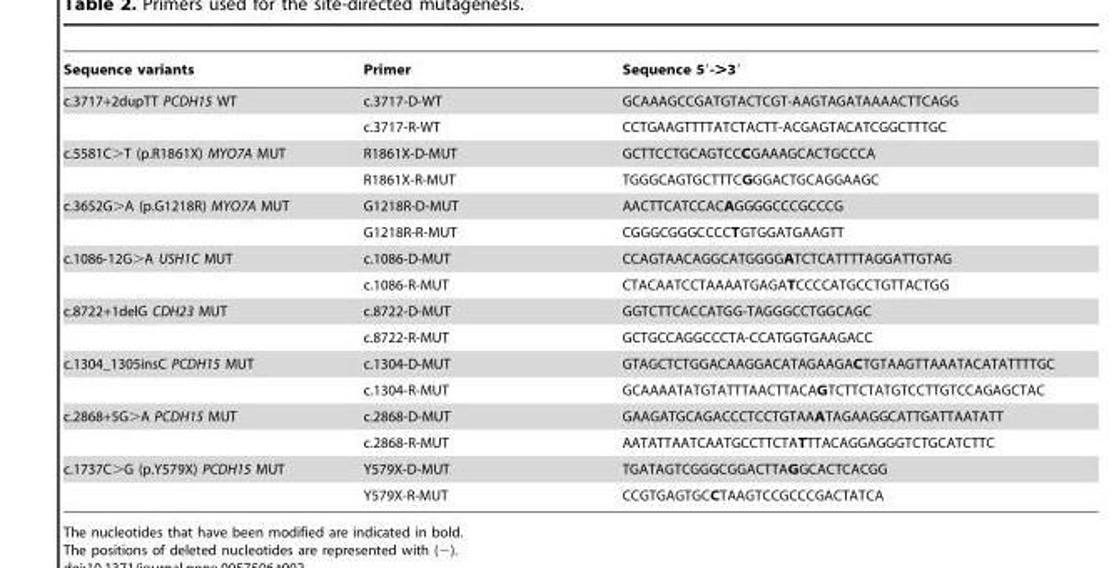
<table><thead><tr><td>Sequence variants</td><td>Primer</td><td>Sequence 5′-&gt;3′</td></tr></thead><tbody><tr><td rowspan="2">c.3717+2dupTT PCDH15 WT</td><td>c.3717-D-WT</td><td>GCAAAGCCGATGTACTCGT-AAGTAGATAAAACTTCAGG</td></tr><tr><td>c.3717-R-WT</td><td>CCTGAAGTTTTATCTACTT-ACGAGTACATCGGCTTTGC</td></tr><tr><td rowspan="2">c.5581C&gt;T (p.R1861X) MYO7A MUT</td><td>R1861X-D-MUT</td><td>GCTTCCTGCAGTCCCGAAAGCACTGCCCA</td></tr><tr><td>R1861X-R-MUT</td><td>TGGGCAGTGCTTTCGGGACTGCAGGAAGC</td></tr><tr><td rowspan="2">c.3652G&gt;A (p.G1218R) MYO7A MUT</td><td>G1218R-D-MUT</td><td>AACTTCATCCACAGGGGCCCGCCCG</td></tr><tr><td>G1218R-R-MUT</td><td>CGGGCGGGCCCCTGTGGATGAAGTT</td></tr><tr><td rowspan="2">c.1086-12G&gt;A USH1C MUT</td><td>c.1086-D-MUT</td><td>CCAGTAACAGGCATGGGGATCTCATTTTAGGATTGTAG</td></tr><tr><td>c.1086-R-MUT</td><td>CTACAATCCTAAAATGAGATCCCCATGCCTGTTACTGG</td></tr><tr><td rowspan="2">c.8722+1delG CDH23 MUT</td><td>c.8722-D-MUT</td><td>GGTCTTCACCATGG-TAGGGCCTGGCAGC</td></tr><tr><td>c.8722-R-MUT</td><td>GCTGCCAGGCCCTA-CCATGGTGAAGACC</td></tr><tr><td rowspan="2">c.1304_1305insC PCDH15 MUT</td><td>c.1304-D-MUT</td><td>GTAGCTCTGGACAAGGACATAGAAGACTGTAAGTTAAATACATATTTTGC</td></tr><tr><td>c.1304-R-MUT</td><td>GCAAAATATGTATTTAACTTACAGTCTTCTATGTCCTTGTCCAGAGCTAC</td></tr><tr><td rowspan="2">c.2868+5G&gt;A PCDH15 MUT</td><td>c.2868-D-MUT</td><td>GAAGATGCAGACCCTCCTGTAAATAGAAGGCATTGATTAATATT</td></tr><tr><td>c.2868-R-MUT</td><td>AATATTAATCAATGCCTTCTATTTACAGGAGGGTCTGCATCTTC</td></tr><tr><td rowspan="2">c.1737C&gt;G (p.Y579X) PCDH15 MUT</td><td>Y579X-D-MUT</td><td>TGATAGTCGGGCGGACTTAGGCACTCACGG</td></tr><tr><td>Y579X-R-MUT</td><td>CCGTGAGTGCCTAAGTCCGCCCGACTATCA</td></tr></tbody></table>